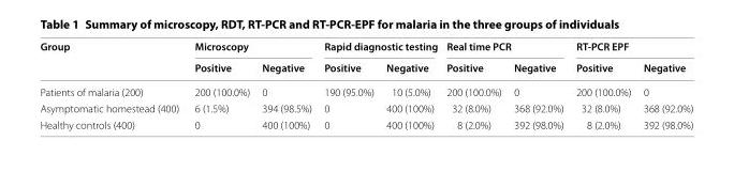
<table><thead><tr><td rowspan="2">Group</td><td colspan="2">Microscopy</td><td colspan="2">Rapid diagnostic testing</td><td colspan="2">Real time PCR</td><td colspan="2">RT‑PCR EPF</td></tr><tr><td>Positive</td><td>Negative</td><td>Positive</td><td>Negative</td><td>Positive</td><td>Negative</td><td>Positive</td><td>Negative</td></tr></thead><tbody><tr><td>Patients of malaria (200)</td><td>200 (100.0%)</td><td>0</td><td>190 (95.0%)</td><td>10 (5.0%)</td><td>200 (100.0%)</td><td>0</td><td>200 (100.0%)</td><td>0</td></tr><tr><td>Asymptomatic homestead (400)</td><td>6 (1.5%)</td><td>394 (98.5%)</td><td>0</td><td>400 (100%)</td><td>32 (8.0%)</td><td>368 (92.0%)</td><td>32 (8.0%)</td><td>368 (92.0%)</td></tr><tr><td>Healthy controls (400)</td><td>0</td><td>400 (100%)</td><td>0</td><td>400 (100%)</td><td>8 (2.0%)</td><td>392 (98.0%)</td><td>8 (2.0%)</td><td>392 (98.0%)</td></tr></tbody></table>